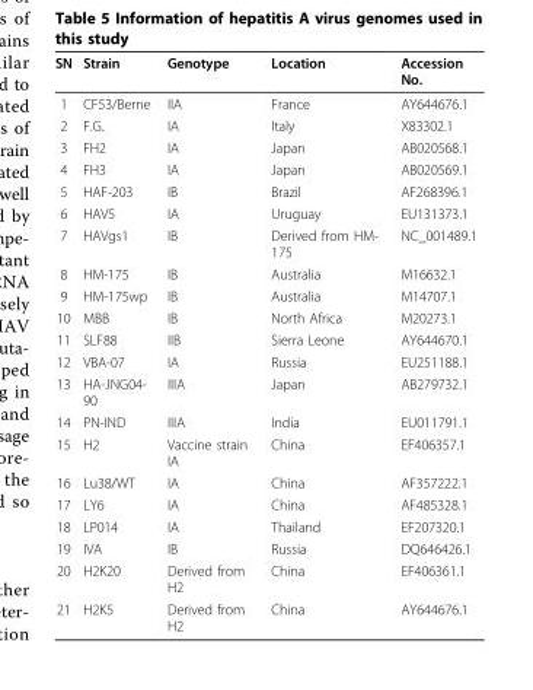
<table><thead><tr><td>SN</td><td>Strain</td><td>Genotype</td><td>Location</td><td>Accession No.</td></tr></thead><tbody><tr><td>1</td><td>CF53/Berne</td><td>IIA</td><td>France</td><td>AY644676.1</td></tr><tr><td>2</td><td>F.G.</td><td>IA</td><td>Italy</td><td>X83302.1</td></tr><tr><td>3</td><td>FH2</td><td>IA</td><td>Japan</td><td>AB020568.1</td></tr><tr><td>4</td><td>FH3</td><td>IA</td><td>Japan</td><td>AB020569.1</td></tr><tr><td>5</td><td>HAF-203</td><td>IB</td><td>Brazil</td><td>AF268396.1</td></tr><tr><td>6</td><td>HAV5</td><td>IA</td><td>Uruguay</td><td>EU131373.1</td></tr><tr><td>7</td><td>HAVgs1</td><td>IB</td><td>Derived from HM- 175</td><td>NC_001489.1</td></tr><tr><td>8</td><td>HM-175</td><td>IB</td><td>Australia</td><td>M16632.1</td></tr><tr><td>9</td><td>HM-175wp</td><td>IB</td><td>Australia</td><td>M14707.1</td></tr><tr><td>10</td><td>MBB</td><td>IB</td><td>North Africa</td><td>M20273.1</td></tr><tr><td>11</td><td>SLF88</td><td>IIB</td><td>Sierra Leone</td><td>AY644670.1</td></tr><tr><td>12</td><td>VBA-07</td><td>IA</td><td>Russia</td><td>EU251188.1</td></tr><tr><td>13</td><td>HA-JNG04- 90</td><td>IIIA</td><td>Japan</td><td>AB279732.1</td></tr><tr><td>14</td><td>PN-IND</td><td>IIIA</td><td>India</td><td>EU011791.1</td></tr><tr><td>15</td><td>H2</td><td>Vaccine strain IA</td><td>China</td><td>EF406357.1</td></tr><tr><td>16</td><td>Lu38/WT</td><td>IA</td><td>China</td><td>AF357222.1</td></tr><tr><td>17</td><td>LY6</td><td>IA</td><td>China</td><td>AF485328.1</td></tr><tr><td>18</td><td>LP014</td><td>IA</td><td>Thailand</td><td>EF207320.1</td></tr><tr><td>19</td><td>IVA</td><td>IB</td><td>Russia</td><td>DQ646426.1</td></tr><tr><td>20</td><td>H2K20</td><td>Derived from H2</td><td>China</td><td>EF406361.1</td></tr><tr><td>21</td><td>H2K5</td><td>Derived from H2</td><td>China</td><td>AY644676.1</td></tr></tbody></table>